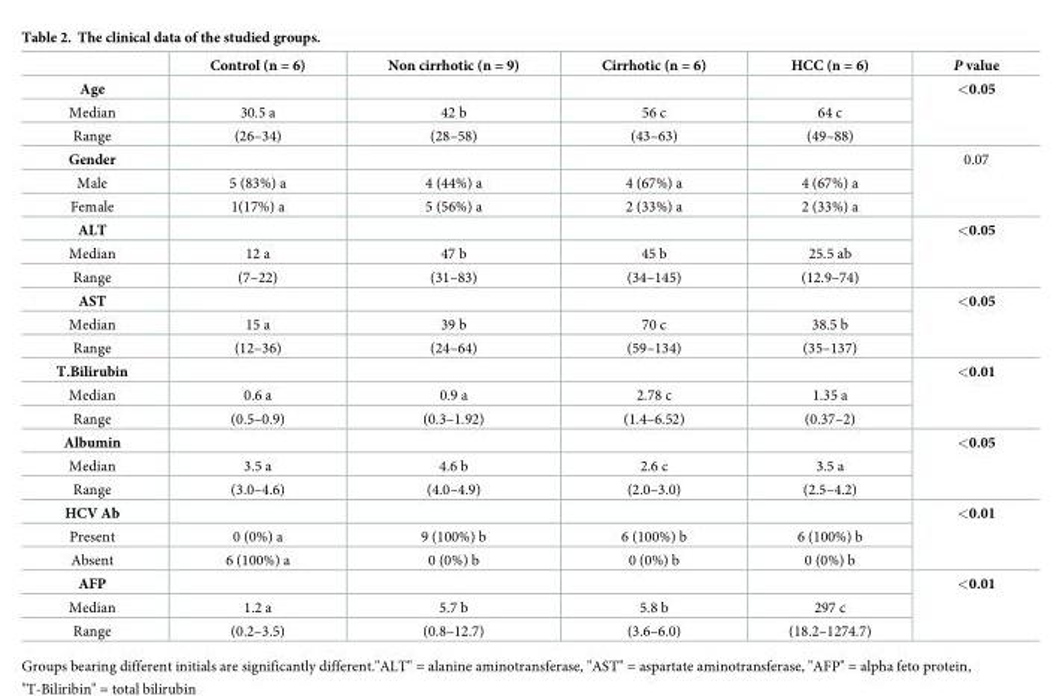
<table><thead><tr><td></td><td>Control (n = 6)</td><td>Non cirrhotic (n = 9)</td><td>Cirrhotic (n = 6)</td><td>HCC (n = 6)</td><td>P value</td></tr></thead><tbody><tr><td colspan="5">Age</td><td rowspan="3">&lt;0.05</td></tr><tr><td>Median</td><td>30.5 a</td><td>42 b</td><td>56 c</td><td>64 c</td></tr><tr><td>Range</td><td>(26–34)</td><td>(28–58)</td><td>(43–63)</td><td>(49–88)</td></tr><tr><td colspan="5">Gender</td><td rowspan="3">0.07</td></tr><tr><td>Male</td><td>5 (83%) a</td><td>4 (44%) a</td><td>4 (67%) a</td><td>4 (67%) a</td></tr><tr><td>Female</td><td>1(17%) a</td><td>5 (56%) a</td><td>2 (33%) a</td><td>2 (33%) a</td></tr><tr><td colspan="5">ALT</td><td rowspan="3">&lt;0.05</td></tr><tr><td>Median</td><td>12 a</td><td>47 b</td><td>45 b</td><td>25.5 ab</td></tr><tr><td>Range</td><td>(7–22)</td><td>(31–83)</td><td>(34–145)</td><td>(12.9–74)</td></tr><tr><td colspan="5">AST</td><td rowspan="3">&lt;0.05</td></tr><tr><td>Median</td><td>15 a</td><td>39 b</td><td>70 c</td><td>38.5 b</td></tr><tr><td>Range</td><td>(12–36)</td><td>(24–64)</td><td>(59–134)</td><td>(35–137)</td></tr><tr><td colspan="5">T.Bilirubin</td><td rowspan="3">&lt;0.01</td></tr><tr><td>Median</td><td>0.6 a</td><td>0.9 a</td><td>2.78 c</td><td>1.35 a</td></tr><tr><td>Range</td><td>(0.5–0.9)</td><td>(0.3–1.92)</td><td>(1.4–6.52)</td><td>(0.37–2)</td></tr><tr><td colspan="5">Albumin</td><td rowspan="3">&lt;0.05</td></tr><tr><td>Median</td><td>3.5 a</td><td>4.6 b</td><td>2.6 c</td><td>3.5 a</td></tr><tr><td>Range</td><td>(3.0–4.6)</td><td>(4.0–4.9)</td><td>(2.0–3.0)</td><td>(2.5–4.2)</td></tr><tr><td colspan="5">HCV Ab</td><td rowspan="3">&lt;0.01</td></tr><tr><td>Present</td><td>0 (0%) a</td><td>9 (100%) b</td><td>6 (100%) b</td><td>6 (100%) b</td></tr><tr><td>Absent</td><td>6 (100%) a</td><td>0 (0%) b</td><td>0 (0%) b</td><td>0 (0%) b</td></tr><tr><td colspan="5">AFP</td><td rowspan="3">&lt;0.01</td></tr><tr><td>Median</td><td>1.2 a</td><td>5.7 b</td><td>5.8 b</td><td>297 c</td></tr><tr><td>Range</td><td>(0.2–3.5)</td><td>(0.8–12.7)</td><td>(3.6–6.0)</td><td>(18.2–1274.7)</td></tr></tbody></table>